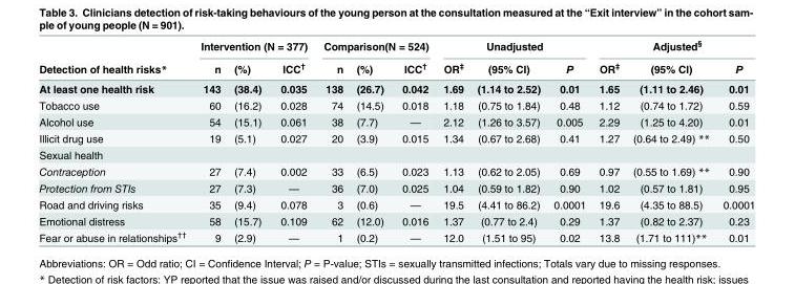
<table><thead><tr><td rowspan="2">Detection of health risks*</td><td colspan="3">Intervention (N = 377)</td><td colspan="3">Comparison(N = 524)</td><td colspan="3">Unadjusted</td><td colspan="3">Adjusted<sup>§</sup></td></tr><tr><td>n</td><td>(%)</td><td>ICC<sup>†</sup></td><td>n</td><td>(%)</td><td>ICC<sup>†</sup></td><td>OR<sup>‡</sup></td><td>(95% CI)</td><td>P</td><td>OR<sup>‡</sup></td><td>(95% CI)</td><td>P</td></tr></thead><tbody><tr><td>At least one health risk</td><td>143</td><td>(38.4)</td><td>0.035</td><td>138</td><td>(26.7)</td><td>0.042</td><td>1.69</td><td>(1.14 to 2.52)</td><td>0.01</td><td>1.65</td><td>(1.11 to 2.46)</td><td>0.01</td></tr><tr><td>Tobacco use</td><td>60</td><td>(16.2)</td><td>0.028</td><td>74</td><td>(14.5)</td><td>0.018</td><td>1.18</td><td>(0.75 to 1.84)</td><td>0.48</td><td>1.12</td><td>(0.74 to 1.72)</td><td>0.59</td></tr><tr><td>Alcohol use</td><td>54</td><td>(15.1)</td><td>0.061</td><td>38</td><td>(7.7)</td><td>—</td><td>2.12</td><td>(1.26 to 3.57)</td><td>0.005</td><td>2.29</td><td>(1.25 to 4.20)</td><td>0.01</td></tr><tr><td>Illicit drug use</td><td>19</td><td>(5.1)</td><td>0.027</td><td>20</td><td>(3.9)</td><td>0.015</td><td>1.34</td><td>(0.67 to 2.68)</td><td>0.41</td><td>1.27</td><td>(0.64 to 2.49) **</td><td>0.50</td></tr><tr><td colspan="13">Sexual health</td></tr><tr><td>Contraception</td><td>27</td><td>(7.4)</td><td>0.002</td><td>33</td><td>(6.5)</td><td>0.023</td><td>1.13</td><td>(0.62 to 2.05)</td><td>0.69</td><td>0.97</td><td>(0.55 to 1.69) **</td><td>0.90</td></tr><tr><td>Protection from STIs</td><td>27</td><td>(7.3)</td><td>—</td><td>36</td><td>(7.0)</td><td>0.025</td><td>1.04</td><td>(0.59 to 1.82)</td><td>0.90</td><td>1.02</td><td>(0.57 to 1.81)</td><td>0.95</td></tr><tr><td>Road and driving risks</td><td>35</td><td>(9.4)</td><td>0.078</td><td>3</td><td>(0.6)</td><td>—</td><td>19.5</td><td>(4.41 to 86.2)</td><td>0.0001</td><td>19.6</td><td>(4.35 to 88.5)</td><td>0.0001</td></tr><tr><td>Emotional distress</td><td>58</td><td>(15.7)</td><td>0.109</td><td>62</td><td>(12.0)</td><td>0.016</td><td>1.37</td><td>(0.77 to 2.4)</td><td>0.29</td><td>1.37</td><td>(0.82 to 2.37)</td><td>0.23</td></tr><tr><td>Fear or abuse in relationships<sup>††</sup></td><td>9</td><td>(2.9)</td><td>—</td><td>1</td><td>(0.2)</td><td>—</td><td>12.0</td><td>(1.51 to 95)</td><td>0.02</td><td>13.8</td><td>(1.71 to 111)**</td><td>0.01</td></tr></tbody></table>